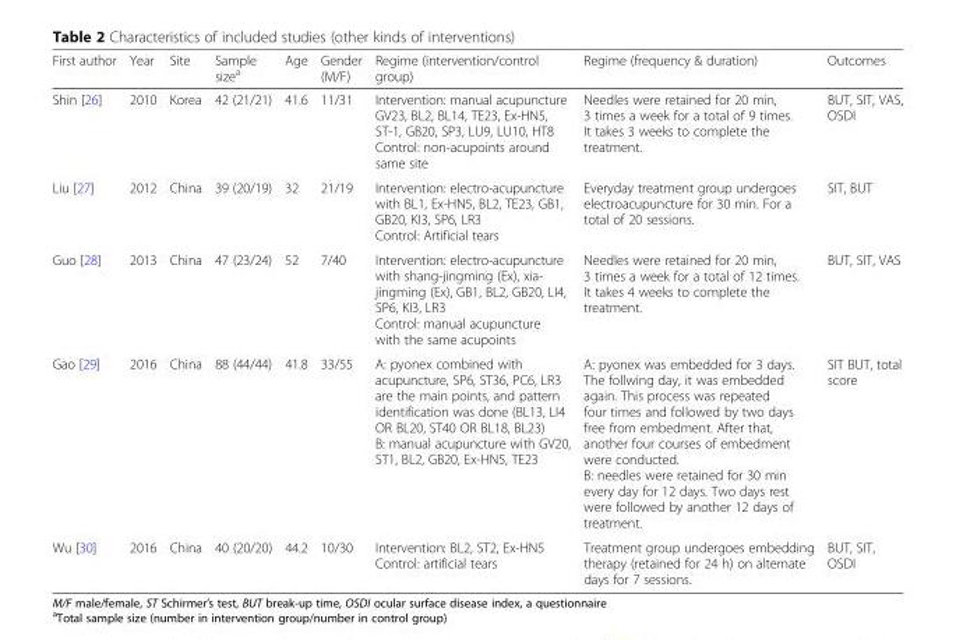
<table><thead><tr><td>First author</td><td>Year</td><td>Site</td><td>Sample size<sup>a</sup></td><td>Age</td><td>Gender (M/F)</td><td>Regime (intervention/control group)</td><td>Regime (frequency &amp; duration)</td><td>Outcomes</td></tr></thead><tbody><tr><td>Shin [26]</td><td>2010</td><td>Korea</td><td>42 (21/21)</td><td>41.6</td><td>11/31</td><td>Intervention: manual acupuncture GV23, BL2, BL14, TE23, Ex-HN5, ST-1, GB20, SP3, LU9, LU10, HT8 Control: non-acupoints around same site</td><td>Needles were retained for 20 min, 3 times a week for a total of 9 times. It takes 3 weeks to complete the treatment.</td><td>BUT, SIT, VAS, OSDI</td></tr><tr><td>Liu [27]</td><td>2012</td><td>China</td><td>39 (20/19)</td><td>32</td><td>21/19</td><td>Intervention: electro-acupuncture with BL1, Ex-HN5, BL2, TE23, GB1, GB20, KI3, SP6, LR3 Control: Artificial tears</td><td>Everyday treatment group undergoes electroacupuncture for 30 min. For a total of 20 sessions.</td><td>SIT, BUT</td></tr><tr><td>Guo [28]</td><td>2013</td><td>China</td><td>47 (23/24)</td><td>52</td><td>7/40</td><td>Intervention: electro-acupuncture with shang-jingming (Ex), xia- jingming (Ex), GB1, BL2, GB20, LI4, SP6, KI3, LR3 Control: manual acupuncture with the same acupoints</td><td>Needles were retained for 20 min, 3 times a week for a total of 12 times. It takes 4 weeks to complete the treatment.</td><td>BUT, SIT, VAS</td></tr><tr><td>Gao [29]</td><td>2016</td><td>China</td><td>88 (44/44)</td><td>41.8</td><td>33/55</td><td>A: pyonex combined with acupuncture, SP6, ST36, PC6, LR3 are the main points, and pattern identification was done (BL13, LI4 OR BL20, ST40 OR BL18, BL23) B: manual acupuncture with GV20, ST1, BL2, GB20, Ex-HN5, TE23</td><td>A: pyonex was embedded for 3 days. The follwing day, it was embedded again. This process was repeated four times and followed by two days free from embedment. After that, another four courses of embedment were conducted. B: needles were retained for 30 min every day for 12 days. Two days rest were followed by another 12 days of treatment.</td><td>SIT BUT, total score</td></tr><tr><td>Wu [30]</td><td>2016</td><td>China</td><td>40 (20/20)</td><td>44.2</td><td>10/30</td><td>Intervention: BL2, ST2, Ex-HN5 Control: artificial tears</td><td>Treatment group undergoes embedding therapy (retained for 24 h) on alternate days for 7 sessions.</td><td>BUT, SIT, OSDI</td></tr></tbody></table>